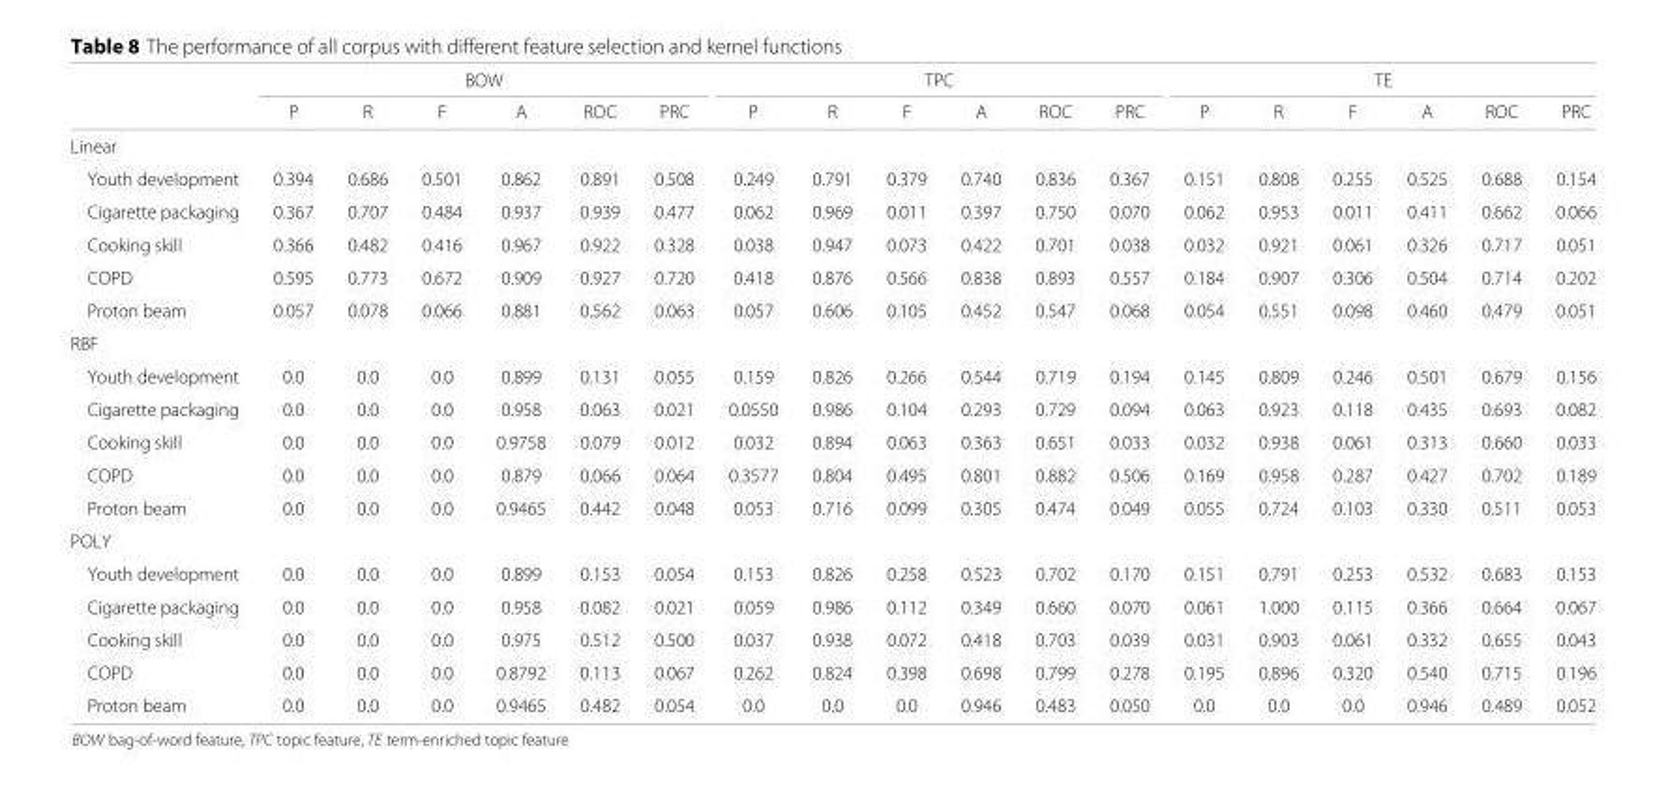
<table><thead><tr><td rowspan="2"></td><td colspan="6">BOW</td><td colspan="6">TPC</td><td colspan="6">TE</td></tr><tr><td>P</td><td>R</td><td>F</td><td>A</td><td>ROC</td><td>PRC</td><td>P</td><td>R</td><td>F</td><td>A</td><td>ROC</td><td>PRC</td><td>P</td><td>R</td><td>F</td><td>A</td><td>ROC</td><td>PRC</td></tr></thead><tbody><tr><td colspan="19">Linear</td></tr><tr><td>Youth development</td><td>0.394</td><td>0.686</td><td>0.501</td><td>0.862</td><td>0.891</td><td>0.508</td><td>0.249</td><td>0.791</td><td>0.379</td><td>0.740</td><td>0.836</td><td>0.367</td><td>0.151</td><td>0.808</td><td>0.255</td><td>0.525</td><td>0.688</td><td>0.154</td></tr><tr><td>Cigarette packaging</td><td>0.367</td><td>0.707</td><td>0.484</td><td>0.937</td><td>0.939</td><td>0.477</td><td>0.062</td><td>0.969</td><td>0.011</td><td>0.397</td><td>0.750</td><td>0.070</td><td>0.062</td><td>0.953</td><td>0.011</td><td>0.411</td><td>0.662</td><td>0.066</td></tr><tr><td>Cooking skill</td><td>0.366</td><td>0.482</td><td>0.416</td><td>0.967</td><td>0.922</td><td>0.328</td><td>0.038</td><td>0.947</td><td>0.073</td><td>0.422</td><td>0.701</td><td>0.038</td><td>0.032</td><td>0.921</td><td>0.061</td><td>0.326</td><td>0.717</td><td>0.051</td></tr><tr><td>COPD</td><td>0.595</td><td>0.773</td><td>0.672</td><td>0.909</td><td>0.927</td><td>0.720</td><td>0.418</td><td>0.876</td><td>0.566</td><td>0.838</td><td>0.893</td><td>0.557</td><td>0.184</td><td>0.907</td><td>0.306</td><td>0.504</td><td>0.714</td><td>0.202</td></tr><tr><td>Proton beam</td><td>0.057</td><td>0.078</td><td>0.066</td><td>0.881</td><td>0.562</td><td>0.063</td><td>0.057</td><td>0.606</td><td>0.105</td><td>0.452</td><td>0.547</td><td>0.068</td><td>0.054</td><td>0.551</td><td>0.098</td><td>0.460</td><td>0.479</td><td>0.051</td></tr><tr><td colspan="19">RBF</td></tr><tr><td>Youth development</td><td>0.0</td><td>0.0</td><td>0.0</td><td>0.899</td><td>0.131</td><td>0.055</td><td>0.159</td><td>0.826</td><td>0.266</td><td>0.544</td><td>0.719</td><td>0.194</td><td>0.145</td><td>0.809</td><td>0.246</td><td>0.501</td><td>0.679</td><td>0.156</td></tr><tr><td>Cigarette packaging</td><td>0.0</td><td>0.0</td><td>0.0</td><td>0.958</td><td>0.063</td><td>0.021</td><td>0.0550</td><td>0.986</td><td>0.104</td><td>0.293</td><td>0.729</td><td>0.094</td><td>0.063</td><td>0.923</td><td>0.118</td><td>0.435</td><td>0.693</td><td>0.082</td></tr><tr><td>Cooking skill</td><td>0.0</td><td>0.0</td><td>0.0</td><td>0.9758</td><td>0.079</td><td>0.012</td><td>0.032</td><td>0.894</td><td>0.063</td><td>0.363</td><td>0.651</td><td>0.033</td><td>0.032</td><td>0.938</td><td>0.061</td><td>0.313</td><td>0.660</td><td>0.033</td></tr><tr><td>COPD</td><td>0.0</td><td>0.0</td><td>0.0</td><td>0.879</td><td>0.066</td><td>0.064</td><td>0.3577</td><td>0.804</td><td>0.495</td><td>0.801</td><td>0.882</td><td>0.506</td><td>0.169</td><td>0.958</td><td>0.287</td><td>0.427</td><td>0.702</td><td>0.189</td></tr><tr><td>Proton beam</td><td>0.0</td><td>0.0</td><td>0.0</td><td>0.9465</td><td>0.442</td><td>0.048</td><td>0.053</td><td>0.716</td><td>0.099</td><td>0.305</td><td>0.474</td><td>0.049</td><td>0.055</td><td>0.724</td><td>0.103</td><td>0.330</td><td>0.511</td><td>0.053</td></tr><tr><td colspan="19">POLY</td></tr><tr><td>Youth development</td><td>0.0</td><td>0.0</td><td>0.0</td><td>0.899</td><td>0.153</td><td>0.054</td><td>0.153</td><td>0.826</td><td>0.258</td><td>0.523</td><td>0.702</td><td>0.170</td><td>0.151</td><td>0.791</td><td>0.253</td><td>0.532</td><td>0.683</td><td>0.153</td></tr><tr><td>Cigarette packaging</td><td>0.0</td><td>0.0</td><td>0.0</td><td>0.958</td><td>0.082</td><td>0.021</td><td>0.059</td><td>0.986</td><td>0.112</td><td>0.349</td><td>0.660</td><td>0.070</td><td>0.061</td><td>1.000</td><td>0.115</td><td>0.366</td><td>0.664</td><td>0.067</td></tr><tr><td>Cooking skill</td><td>0.0</td><td>0.0</td><td>0.0</td><td>0.975</td><td>0.512</td><td>0.500</td><td>0.037</td><td>0.938</td><td>0.072</td><td>0.418</td><td>0.703</td><td>0.039</td><td>0.031</td><td>0.903</td><td>0.061</td><td>0.332</td><td>0.655</td><td>0.043</td></tr><tr><td>COPD</td><td>0.0</td><td>0.0</td><td>0.0</td><td>0.8792</td><td>0.113</td><td>0.067</td><td>0.262</td><td>0.824</td><td>0.398</td><td>0.698</td><td>0.799</td><td>0.278</td><td>0.195</td><td>0.896</td><td>0.320</td><td>0.540</td><td>0.715</td><td>0.196</td></tr><tr><td>Proton beam</td><td>0.0</td><td>0.0</td><td>0.0</td><td>0.9465</td><td>0.482</td><td>0.054</td><td>0.0</td><td>0.0</td><td>0.0</td><td>0.946</td><td>0.483</td><td>0.050</td><td>0.0</td><td>0.0</td><td>0.0</td><td>0.946</td><td>0.489</td><td>0.052</td></tr></tbody></table>